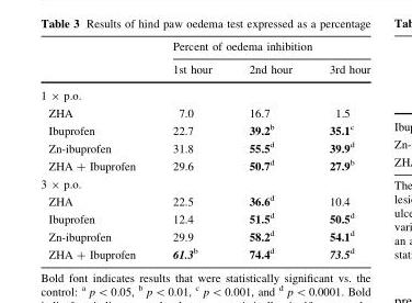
<table><thead><tr><td rowspan="2"></td><td colspan="3">Percent of oedema inhibition</td></tr><tr><td>1st hour</td><td>2nd hour</td><td>3rd hour</td></tr></thead><tbody><tr><td colspan="4">1 × p.o.</td></tr><tr><td>ZHA</td><td>7.0</td><td>16.7</td><td>1.5</td></tr><tr><td>Ibuprofen</td><td>22.7</td><td>39.2<sup>b</sup></td><td>35.1<sup>c</sup></td></tr><tr><td>Zn-ibuprofen</td><td>31.8</td><td>55.5<sup>d</sup></td><td>39.9<sup>d</sup></td></tr><tr><td>ZHA + Ibuprofen</td><td>29.6</td><td>50.7<sup>d</sup></td><td>27.9<sup>b</sup></td></tr><tr><td colspan="4">3 × p.o.</td></tr><tr><td>ZHA</td><td>22.5</td><td>36.6<sup>d</sup></td><td>10.4</td></tr><tr><td>Ibuprofen</td><td>12.4</td><td>51.5<sup>d</sup></td><td>50.5<sup>d</sup></td></tr><tr><td>Zn-ibuprofen</td><td>29.9</td><td>58.2<sup>d</sup></td><td>54.1<sup>d</sup></td></tr><tr><td>ZHA + Ibuprofen</td><td>61.3<sup>b</sup></td><td>74.4<sup>d</sup></td><td>73.5<sup>d</sup></td></tr></tbody></table>